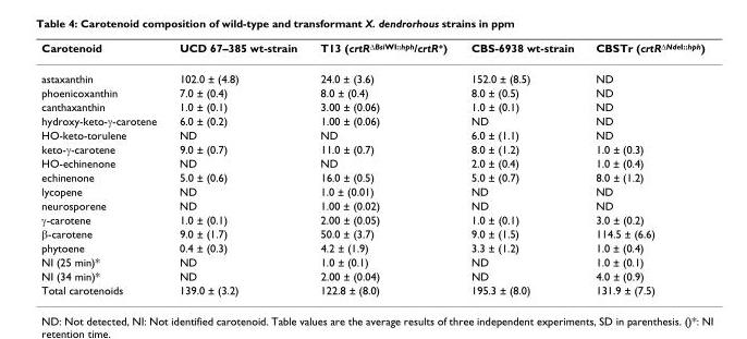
<table><thead><tr><td>Carotenoid</td><td>UCD 67–385 wt-strain</td><td>T13 (crtR<sup>ΔBsiWI::hph</sup>/crtR<sup>+</sup>)</td><td>CBS-6938 wt-strain</td><td>CBSTr (crtR<sup>ΔNdeI::hph</sup>)</td></tr></thead><tbody><tr><td>astaxanthin</td><td>102.0 ± (4.8)</td><td>24.0 ± (3.6)</td><td>152.0 ± (8.5)</td><td>ND</td></tr><tr><td>phoenicoxanthin</td><td>7.0 ± (0.4)</td><td>8.0 ± (0.4)</td><td>8.0 ± (0.5)</td><td>ND</td></tr><tr><td>canthaxanthin</td><td>1.0 ± (0.1)</td><td>3.00 ± (0.06)</td><td>1.0 ± (0.1)</td><td>ND</td></tr><tr><td>hydroxy-keto-γ-carotene</td><td>6.0 ± (0.2)</td><td>1.00 ± (0.06)</td><td>ND</td><td>ND</td></tr><tr><td>HO-keto-torulene</td><td>ND</td><td>ND</td><td>6.0 ± (1.1)</td><td>ND</td></tr><tr><td>keto-γ-carotene</td><td>9.0 ± (0.7)</td><td>11.0 ± (0.7)</td><td>8.0 ± (1.2)</td><td>1.0 ± (0.3)</td></tr><tr><td>HO-echinenone</td><td>ND</td><td>ND</td><td>2.0 ± (0.4)</td><td>1.0 ± (0.4)</td></tr><tr><td>echinenone</td><td>5.0 ± (0.6)</td><td>16.0 ± (0.5)</td><td>5.0 ± (0.7)</td><td>8.0 ± (1.2)</td></tr><tr><td>lycopene</td><td>ND</td><td>1.0 ± (0.01)</td><td>ND</td><td>ND</td></tr><tr><td>neurosporene</td><td>ND</td><td>1.00 ± (0.02)</td><td>ND</td><td>ND</td></tr><tr><td>γ-carotene</td><td>1.0 ± (0.1)</td><td>2.00 ± (0.05)</td><td>1.0 ± (0.1)</td><td>3.0 ± (0.2)</td></tr><tr><td>β-carotene</td><td>9.0 ± (1.7)</td><td>50.0 ± (3.7)</td><td>9.0 ± (1.5)</td><td>114.5 ± (6.6)</td></tr><tr><td>phytoene</td><td>0.4 ± (0.3)</td><td>4.2 ± (1.9)</td><td>3.3 ± (1.2)</td><td>1.0 ± (0.4)</td></tr><tr><td>NI (25 min)*</td><td>ND</td><td>1.0 ± (0.1)</td><td>ND</td><td>1.0 ± (0.1)</td></tr><tr><td>NI (34 min)*</td><td>ND</td><td>2.00 ± (0.04)</td><td>ND</td><td>4.0 ± (0.9)</td></tr><tr><td>Total carotenoids</td><td>139.0 ± (3.2)</td><td>122.8 ± (8.0)</td><td>195.3 ± (8.0)</td><td>131.9 ± (7.5)</td></tr></tbody></table>